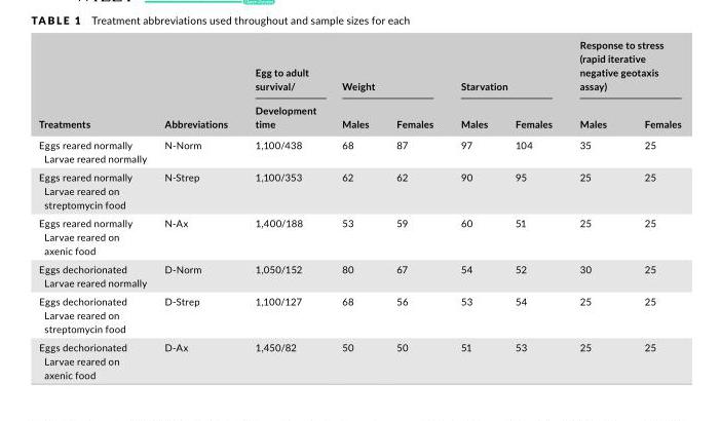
<table><thead><tr><td rowspan="2">Treatments</td><td rowspan="2">Abbreviations</td><td rowspan="2">Egg to adult survival/ Development time</td><td colspan="2">Weight</td><td colspan="2">Starvation</td><td colspan="2">Response to stress (rapid iterative negative geotaxis assay)</td></tr><tr><td>Males</td><td>Females</td><td>Males</td><td>Females</td><td>Males</td><td>Females</td></tr></thead><tbody><tr><td>Eggs reared normally Larvae reared normally</td><td>N- Norm</td><td>1,100/438</td><td>68</td><td>87</td><td>97</td><td>104</td><td>35</td><td>25</td></tr><tr><td>Eggs reared normally Larvae reared on streptomycin food</td><td>N- Strep</td><td>1,100/353</td><td>62</td><td>62</td><td>90</td><td>95</td><td>25</td><td>25</td></tr><tr><td>Eggs reared normally Larvae reared on axenic food</td><td>N- Ax</td><td>1,400/188</td><td>53</td><td>59</td><td>60</td><td>51</td><td>25</td><td>25</td></tr><tr><td>Eggs dechorionated Larvae reared normally</td><td>D- Norm</td><td>1,050/152</td><td>80</td><td>67</td><td>54</td><td>52</td><td>30</td><td>25</td></tr><tr><td>Eggs dechorionated Larvae reared on streptomycin food</td><td>D- Strep</td><td>1,100/127</td><td>68</td><td>56</td><td>53</td><td>54</td><td>25</td><td>25</td></tr><tr><td>Eggs dechorionated Larvae reared on axenic food</td><td>D- Ax</td><td>1,450/82</td><td>50</td><td>50</td><td>51</td><td>53</td><td>25</td><td>25</td></tr></tbody></table>